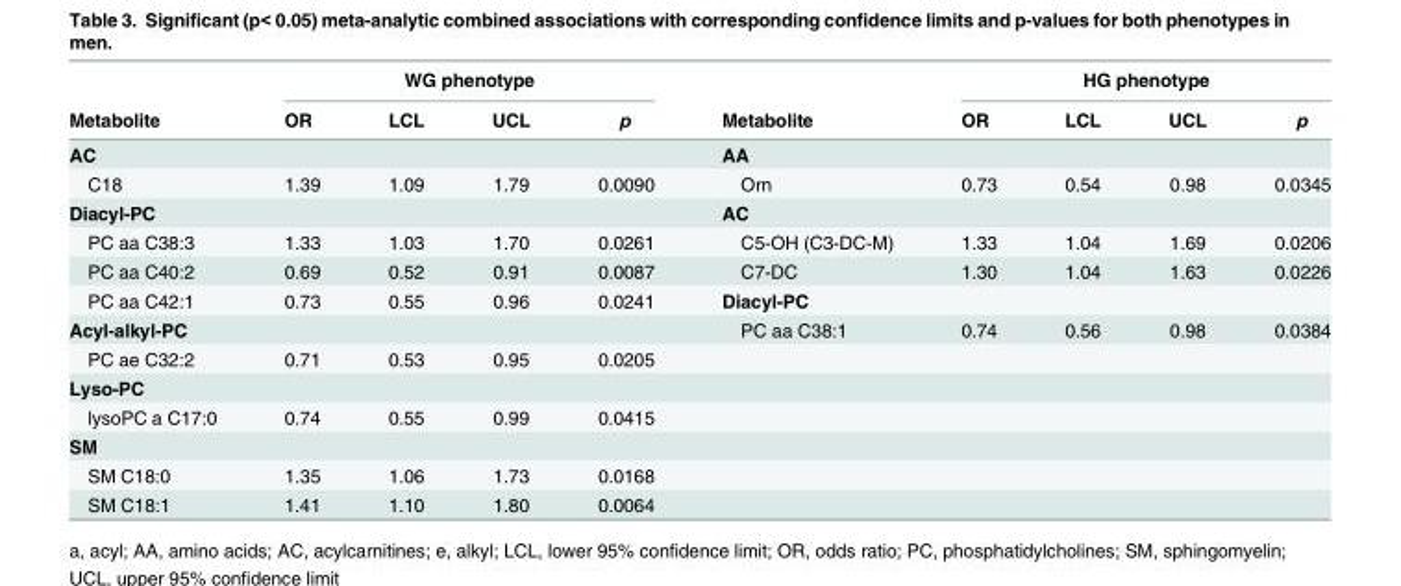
<table><thead><tr><td rowspan="2">Metabolite</td><td colspan="4">WG phenotype</td><td rowspan="2">Metabolite</td><td colspan="4">HG phenotype</td></tr><tr><td>OR</td><td>LCL</td><td>UCL</td><td>p</td><td>OR</td><td>LCL</td><td>UCL</td><td>p</td></tr></thead><tbody><tr><td>AC</td><td></td><td></td><td></td><td></td><td>AA</td><td></td><td></td><td></td><td></td></tr><tr><td>C18</td><td>1.39</td><td>1.09</td><td>1.79</td><td>0.0090</td><td>Orn</td><td>0.73</td><td>0.54</td><td>0.98</td><td>0.0345</td></tr><tr><td>Diacyl-PC</td><td></td><td></td><td></td><td></td><td>AC</td><td></td><td></td><td></td><td></td></tr><tr><td>PC aa C38:3</td><td>1.33</td><td>1.03</td><td>1.70</td><td>0.0261</td><td>C5-OH (C3-DC-M)</td><td>1.33</td><td>1.04</td><td>1.69</td><td>0.0206</td></tr><tr><td>PC aa C40:2</td><td>0.69</td><td>0.52</td><td>0.91</td><td>0.0087</td><td>C7-DC</td><td>1.30</td><td>1.04</td><td>1.63</td><td>0.0226</td></tr><tr><td>PC aa C42:1</td><td>0.73</td><td>0.55</td><td>0.96</td><td>0.0241</td><td>Diacyl-PC</td><td></td><td></td><td></td><td></td></tr><tr><td>Acyl-alkyl-PC</td><td></td><td></td><td></td><td></td><td>PC aa C38:1</td><td>0.74</td><td>0.56</td><td>0.98</td><td>0.0384</td></tr><tr><td>PC ae C32:2</td><td>0.71</td><td>0.53</td><td>0.95</td><td>0.0205</td><td></td><td></td><td></td><td></td><td></td></tr><tr><td colspan="10">Lyso-PC</td></tr><tr><td>lysoPC a C17:0</td><td>0.74</td><td>0.55</td><td>0.99</td><td>0.0415</td><td></td><td></td><td></td><td></td><td></td></tr><tr><td colspan="10">SM</td></tr><tr><td>SM C18:0</td><td>1.35</td><td>1.06</td><td>1.73</td><td>0.0168</td><td></td><td></td><td></td><td></td><td></td></tr><tr><td>SM C18:1</td><td>1.41</td><td>1.10</td><td>1.80</td><td>0.0064</td><td></td><td></td><td></td><td></td><td></td></tr></tbody></table>